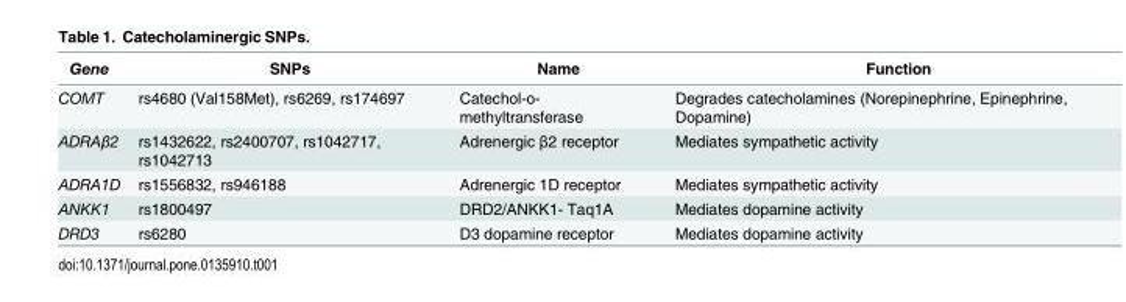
<table><thead><tr><td>Gene</td><td>SNPs</td><td>Name</td><td>Function</td></tr></thead><tbody><tr><td>COMT</td><td>rs4680 (Val158Met), rs6269, rs174697</td><td>Catechol-o- methyltransferase</td><td>Degrades catecholamines (Norepinephrine, Epinephrine, Dopamine)</td></tr><tr><td>ADRAβ2</td><td>rs1432622, rs2400707, rs1042717, rs1042713</td><td>Adrenergic β2 receptor</td><td>Mediates sympathetic activity</td></tr><tr><td>ADRA1D</td><td>rs1556832, rs946188</td><td>Adrenergic 1D receptor</td><td>Mediates sympathetic activity</td></tr><tr><td>ANKK1</td><td>rs1800497</td><td>DRD2/ANKK1- Taq1A</td><td>Mediates dopamine activity</td></tr><tr><td>DRD3</td><td>rs6280</td><td>D3 dopamine receptor</td><td>Mediates dopamine activity</td></tr></tbody></table>